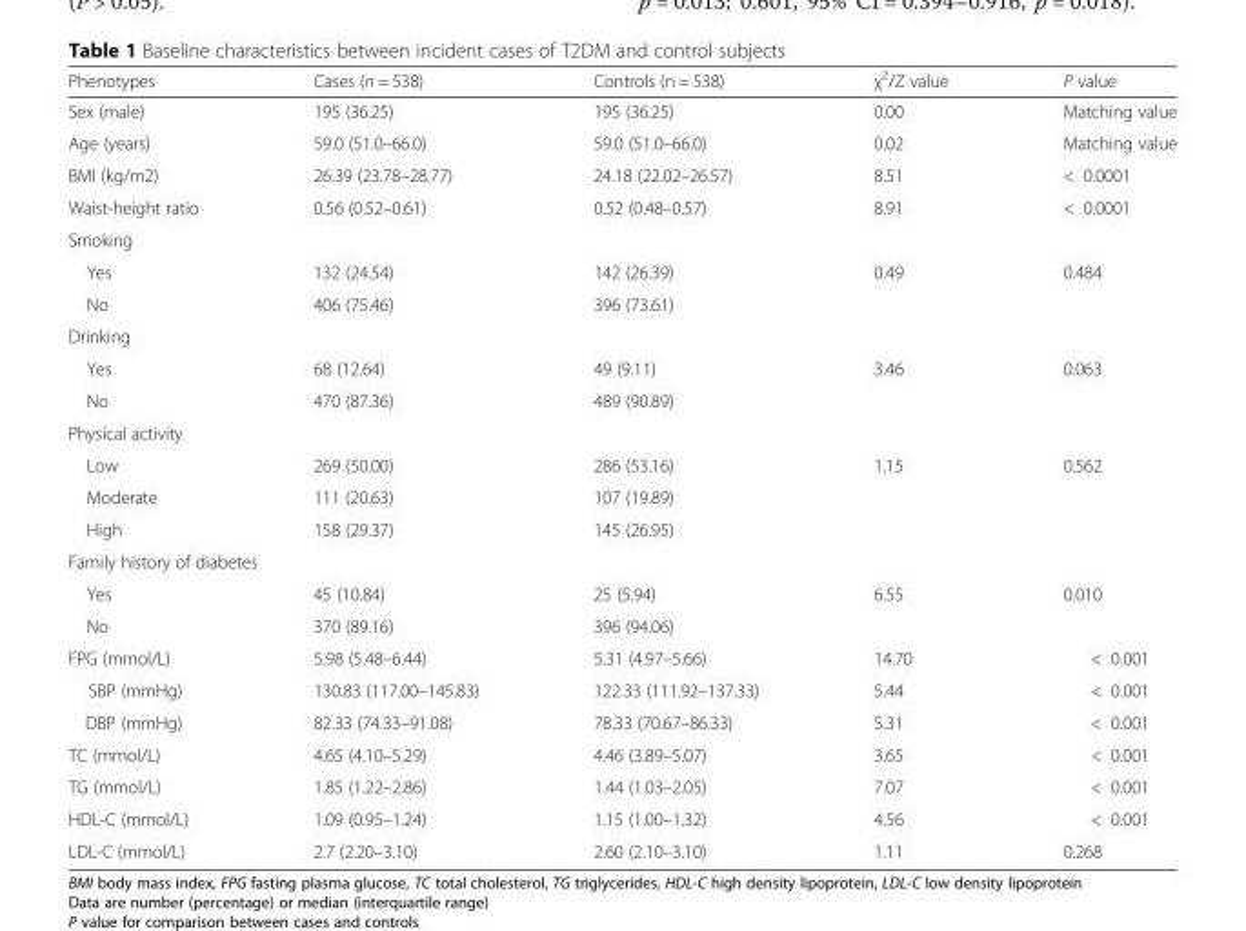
<table><thead><tr><td>Phenotypes</td><td>Cases (n = 538)</td><td>Controls (n = 538)</td><td>χ<sup>2</sup>/Z value</td><td>P value</td></tr></thead><tbody><tr><td>Sex (male)</td><td>195 (36.25)</td><td>195 (36.25)</td><td>0.00</td><td>Matching value</td></tr><tr><td>Age (years)</td><td>59.0 (51.0–66.0)</td><td>59.0 (51.0–66.0)</td><td>0.02</td><td>Matching value</td></tr><tr><td>BMI (kg/m2)</td><td>26.39 (23.78–28.77)</td><td>24.18 (22.02–26.57)</td><td>8.51</td><td>&lt; 0.0001</td></tr><tr><td>Waist-height ratio</td><td>0.56 (0.52–0.61)</td><td>0.52 (0.48–0.57)</td><td>8.91</td><td>&lt; 0.0001</td></tr><tr><td colspan="5">Smoking</td></tr><tr><td>Yes</td><td>132 (24.54)</td><td>142 (26.39)</td><td>0.49</td><td>0.484</td></tr><tr><td>No</td><td>406 (75.46)</td><td>396 (73.61)</td><td></td><td></td></tr><tr><td colspan="5">Drinking</td></tr><tr><td>Yes</td><td>68 (12.64)</td><td>49 (9.11)</td><td>3.46</td><td>0.063</td></tr><tr><td>No</td><td>470 (87.36)</td><td>489 (90.89)</td><td></td><td></td></tr><tr><td colspan="5">Physical activity</td></tr><tr><td>Low</td><td>269 (50.00)</td><td>286 (53.16)</td><td>1.15</td><td>0.562</td></tr><tr><td>Moderate</td><td>111 (20.63)</td><td>107 (19.89)</td><td></td><td></td></tr><tr><td>High</td><td>158 (29.37)</td><td>145 (26.95)</td><td></td><td></td></tr><tr><td colspan="5">Family history of diabetes</td></tr><tr><td>Yes</td><td>45 (10.84)</td><td>25 (5.94)</td><td>6.55</td><td>0.010</td></tr><tr><td>No</td><td>370 (89.16)</td><td>396 (94.06)</td><td></td><td></td></tr><tr><td>FPG (mmol/L)</td><td>5.98 (5.48–6.44)</td><td>5.31 (4.97–5.66)</td><td>14.70</td><td>&lt; 0.001</td></tr><tr><td>SBP (mmHg)</td><td>130.83 (117.00–145.83)</td><td>122.33 (111.92–137.33)</td><td>5.44</td><td>&lt; 0.001</td></tr><tr><td>DBP (mmHg)</td><td>82.33 (74.33–91.08)</td><td>78.33 (70.67–86.33)</td><td>5.31</td><td>&lt; 0.001</td></tr><tr><td>TC (mmol/L)</td><td>4.65 (4.10–5.29)</td><td>4.46 (3.89–5.07)</td><td>3.65</td><td>&lt; 0.001</td></tr><tr><td>TG (mmol/L)</td><td>1.85 (1.22–2.86)</td><td>1.44 (1.03–2.05)</td><td>7.07</td><td>&lt; 0.001</td></tr><tr><td>HDL-C (mmol/L)</td><td>1.09 (0.95–1.24)</td><td>1.15 (1.00–1.32)</td><td>4.56</td><td>&lt; 0.001</td></tr><tr><td>LDL-C (mmol/L)</td><td>2.7 (2.20–3.10)</td><td>2.60 (2.10–3.10)</td><td>1.11</td><td>0.268</td></tr></tbody></table>